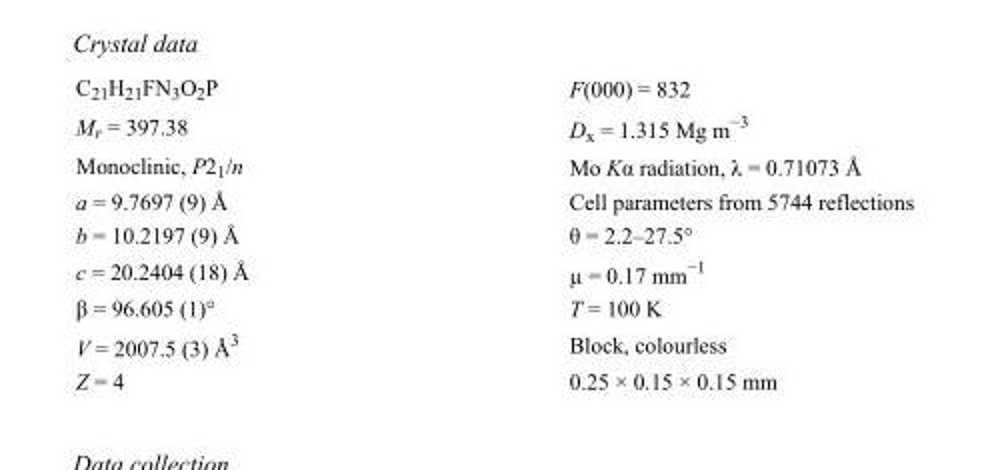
<table><tbody><tr><td>C<sub>21</sub>H<sub>21</sub>FN<sub>3</sub>O<sub>2</sub>P</td><td>F(000) = 832</td></tr><tr><td>M<sub>r</sub> = 397.38</td><td>D<sub>x</sub> = 1.315 Mg m<sup>−3</sup></td></tr><tr><td>Monoclinic, P2<sub>1</sub>/n</td><td>Mo Kα radiation, λ = 0.71073 Å</td></tr><tr><td>a = 9.7697 (9) Å</td><td>Cell parameters from 5744 reflections</td></tr><tr><td>b = 10.2197 (9) Å</td><td>θ = 2.2–27.5°</td></tr><tr><td>c = 20.2404 (18) Å</td><td>µ = 0.17 mm<sup>−1</sup></td></tr><tr><td>β = 96.605 (1)°</td><td>T = 100 K</td></tr><tr><td>V = 2007.5 (3) Å<sup>3</sup></td><td>Block, colourless</td></tr><tr><td>Z = 4</td><td>0.25 × 0.15 × 0.15 mm</td></tr></tbody></table>